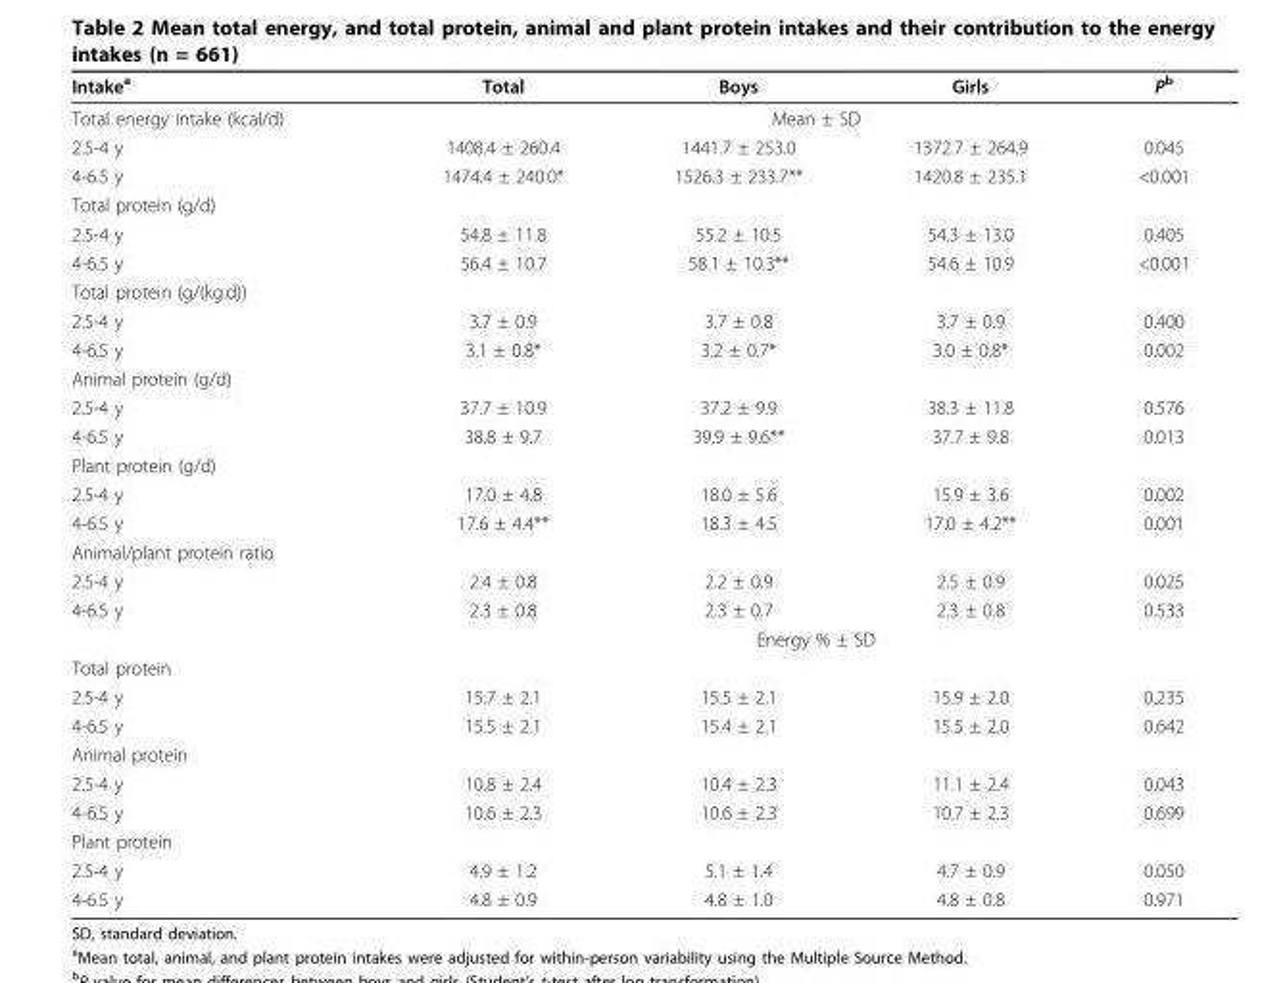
<table><thead><tr><td>Intake<sup>a</sup></td><td>Total</td><td>Boys</td><td>Girls</td><td>P<sup>b</sup></td></tr></thead><tbody><tr><td>Total energy intake (kcal/d)</td><td colspan="4">Mean ± SD</td></tr><tr><td>2.5-4 y</td><td>1408.4 ± 260.4</td><td>1441.7 ± 253.0</td><td>1372.7 ± 264.9</td><td>0.045</td></tr><tr><td>4-6.5 y</td><td>1474.4 ± 240.0*</td><td>1526.3 ± 233.7**</td><td>1420.8 ± 235.1</td><td>&lt;0.001</td></tr><tr><td colspan="5">Total protein (g/d)</td></tr><tr><td>2.5-4 y</td><td>54.8 ± 11.8</td><td>55.2 ± 10.5</td><td>54.3 ± 13.0</td><td>0.405</td></tr><tr><td>4-6.5 y</td><td>56.4 ± 10.7</td><td>58.1 ± 10.3**</td><td>54.6 ± 10.9</td><td>&lt;0.001</td></tr><tr><td colspan="5">Total protein (g/(kg.d))</td></tr><tr><td>2.5-4 y</td><td>3.7 ± 0.9</td><td>3.7 ± 0.8</td><td>3.7 ± 0.9</td><td>0.400</td></tr><tr><td>4-6.5 y</td><td>3.1 ± 0.8*</td><td>3.2 ± 0.7*</td><td>3.0 ± 0.8*</td><td>0.002</td></tr><tr><td colspan="5">Animal protein (g/d)</td></tr><tr><td>2.5-4 y</td><td>37.7 ± 10.9</td><td>37.2 ± 9.9</td><td>38.3 ± 11.8</td><td>0.576</td></tr><tr><td>4-6.5 y</td><td>38.8 ± 9.7</td><td>39.9 ± 9.6**</td><td>37.7 ± 9.8</td><td>0.013</td></tr><tr><td colspan="5">Plant protein (g/d)</td></tr><tr><td>2.5-4 y</td><td>17.0 ± 4.8</td><td>18.0 ± 5.6</td><td>15.9 ± 3.6</td><td>0.002</td></tr><tr><td>4-6.5 y</td><td>17.6 ± 4.4**</td><td>18.3 ± 4.5</td><td>17.0 ± 4.2**</td><td>0.001</td></tr><tr><td colspan="5">Animal/plant protein ratio</td></tr><tr><td>2.5-4 y</td><td>2.4 ± 0.8</td><td>2.2 ± 0.9</td><td>2.5 ± 0.9</td><td>0.025</td></tr><tr><td rowspan="2">4-6.5 y</td><td>2.3 ± 0.8</td><td>2.3 ± 0.7</td><td>2.3 ± 0.8</td><td>0.533</td></tr><tr><td colspan="4">Energy % ± SD</td></tr><tr><td colspan="5">Total protein</td></tr><tr><td>2.5-4 y</td><td>15.7 ± 2.1</td><td>15.5 ± 2.1</td><td>15.9 ± 2.0</td><td>0.235</td></tr><tr><td>4-6.5 y</td><td>15.5 ± 2.1</td><td>15.4 ± 2.1</td><td>15.5 ± 2.0</td><td>0.642</td></tr><tr><td colspan="5">Animal protein</td></tr><tr><td>2.5-4 y</td><td>10.8 ± 2.4</td><td>10.4 ± 2.3</td><td>11.1 ± 2.4</td><td>0.043</td></tr><tr><td>4-6.5 y</td><td>10.6 ± 2.3</td><td>10.6 ± 2.3</td><td>10.7 ± 2.3</td><td>0.699</td></tr><tr><td colspan="5">Plant protein</td></tr><tr><td>2.5-4 y</td><td>4.9 ± 1.2</td><td>5.1 ± 1.4</td><td>4.7 ± 0.9</td><td>0.050</td></tr><tr><td>4-6.5 y</td><td>4.8 ± 0.9</td><td>4.8 ± 1.0</td><td>4.8 ± 0.8</td><td>0.971</td></tr></tbody></table>